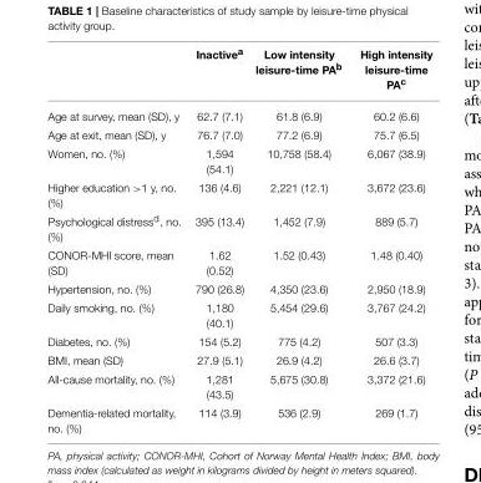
<table><thead><tr><td></td><td>Inactive<sup>a</sup></td><td>Low intensity leisure-time PA<sup>b</sup></td><td>High intensity leisure-time PA<sup>c</sup></td></tr></thead><tbody><tr><td>Age at survey, mean (SD), y</td><td>62.7 (7.1)</td><td>61.8 (6.9)</td><td>60.2 (6.6)</td></tr><tr><td>Age at exit, mean (SD), y</td><td>76.7 (7.0)</td><td>77.2 (6.9)</td><td>75.7 (6.5)</td></tr><tr><td>Women, no. (%)</td><td>1,594 (54.1)</td><td>10,758 (58.4)</td><td>6,067 (38.9)</td></tr><tr><td>Higher education &gt;1 y, no. (%)</td><td>136 (4.6)</td><td>2,221 (12.1)</td><td>3,672 (23.6)</td></tr><tr><td>Psychological distress<sup>d</sup>, no. (%)</td><td>395 (13.4)</td><td>1,452 (7.9)</td><td>889 (5.7)</td></tr><tr><td>CONOR-MHI score, mean (SD)</td><td>1.62 (0.52)</td><td>1.52 (0.43)</td><td>1.48 (0.40)</td></tr><tr><td>Hypertension, no. (%)</td><td>790 (26.8)</td><td>4,350 (23.6)</td><td>2,950 (18.9)</td></tr><tr><td>Daily smoking, no. (%)</td><td>1,180 (40.1)</td><td>5,454 (29.6)</td><td>3,767 (24.2)</td></tr><tr><td>Diabetes, no. (%)</td><td>154 (5.2)</td><td>775 (4.2)</td><td>507 (3.3)</td></tr><tr><td>BMI, mean (SD)</td><td>27.9 (5.1)</td><td>26.9 (4.2)</td><td>26.6 (3.7)</td></tr><tr><td>All-cause mortality, no. (%)</td><td>1,281 (43.5)</td><td>5,675 (30.8)</td><td>3,372 (21.6)</td></tr><tr><td>Dementia-related mortality, no. (%)</td><td>114 (3.9)</td><td>536 (2.9)</td><td>269 (1.7)</td></tr></tbody></table>